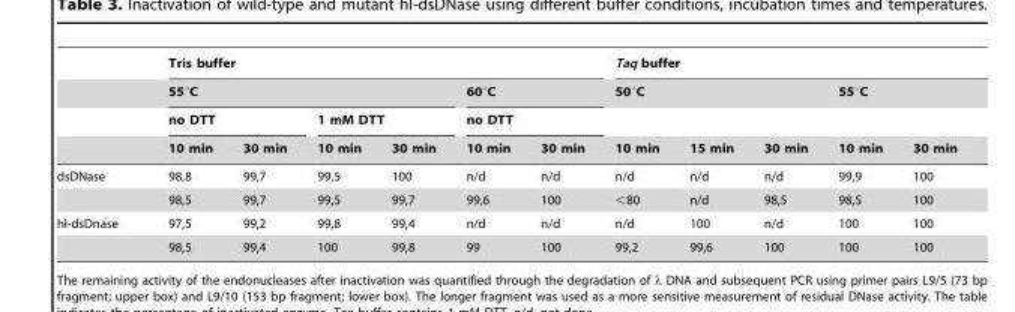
<table><thead><tr><td rowspan="4"></td><td colspan="6">Tris buffer</td><td colspan="5">Taq buffer</td></tr><tr><td colspan="4">55°C</td><td rowspan="2" colspan="2">60°C no DTT</td><td colspan="3">50°C</td><td colspan="2">55°C</td></tr><tr><td colspan="2">no DTT</td><td colspan="2">1 mM DTT</td><td rowspan="2">10 min</td><td rowspan="2">15 min</td><td rowspan="2">30 min</td><td rowspan="2">10 min</td><td rowspan="2">30 min</td></tr><tr><td>10 min</td><td>30 min</td><td>10 min</td><td>30 min</td><td>10 min</td><td>30 min</td></tr></thead><tbody><tr><td rowspan="2">dsDNase</td><td>98,8</td><td>99,7</td><td>99,5</td><td>100</td><td>n/d</td><td>n/d</td><td>n/d</td><td>n/d</td><td>n/d</td><td>99,9</td><td>100</td></tr><tr><td>98,5</td><td>99,7</td><td>99,5</td><td>99,7</td><td>99,6</td><td>100</td><td>&lt;80</td><td>n/d</td><td>98,5</td><td>98,5</td><td>100</td></tr><tr><td rowspan="2">hl-dsDnase</td><td>97,5</td><td>99,2</td><td>99,8</td><td>99,4</td><td>n/d</td><td>n/d</td><td>n/d</td><td>100</td><td>n/d</td><td>100</td><td>100</td></tr><tr><td>98,5</td><td>99,4</td><td>100</td><td>99,8</td><td>99</td><td>100</td><td>99,2</td><td>99,6</td><td>100</td><td>100</td><td>100</td></tr></tbody></table>